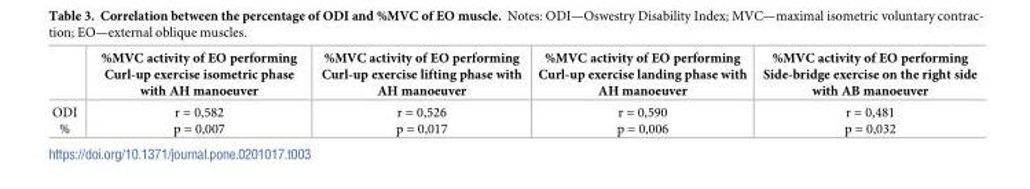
<table><thead><tr><td></td><td>%MVC activity of EO performing Curl-up exercise isometric phase with AH manoeuver</td><td>%MVC activity of EO performing Curl-up exercise lifting phase with AH manoeuver</td><td>%MVC activity of EO performing Curl-up exercise landing phase with AH manoeuver</td><td>%MVC activity of EO performing Side-bridge exercise on the right side with AB manoeuver</td></tr></thead><tbody><tr><td>ODI %</td><td>r = 0,582 p = 0,007</td><td>r = 0,526 p = 0,017</td><td>r = 0,590 p = 0,006</td><td>r = 0,481 p = 0,032</td></tr></tbody></table>